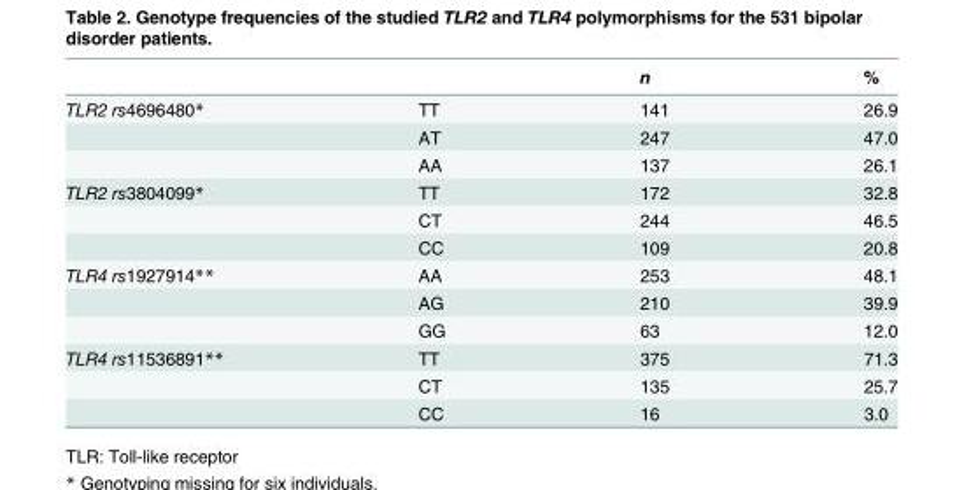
<table><thead><tr><td></td><td></td><td>n</td><td>%</td></tr></thead><tbody><tr><td rowspan="3">TLR2 rs4696480*</td><td>TT</td><td>141</td><td>26.9</td></tr><tr><td>AT</td><td>247</td><td>47.0</td></tr><tr><td>AA</td><td>137</td><td>26.1</td></tr><tr><td rowspan="3">TLR2 rs3804099*</td><td>TT</td><td>172</td><td>32.8</td></tr><tr><td>CT</td><td>244</td><td>46.5</td></tr><tr><td>CC</td><td>109</td><td>20.8</td></tr><tr><td rowspan="3">TLR4 rs1927914**</td><td>AA</td><td>253</td><td>48.1</td></tr><tr><td>AG</td><td>210</td><td>39.9</td></tr><tr><td>GG</td><td>63</td><td>12.0</td></tr><tr><td rowspan="3">TLR4 rs11536891**</td><td>TT</td><td>375</td><td>71.3</td></tr><tr><td>CT</td><td>135</td><td>25.7</td></tr><tr><td>CC</td><td>16</td><td>3.0</td></tr></tbody></table>